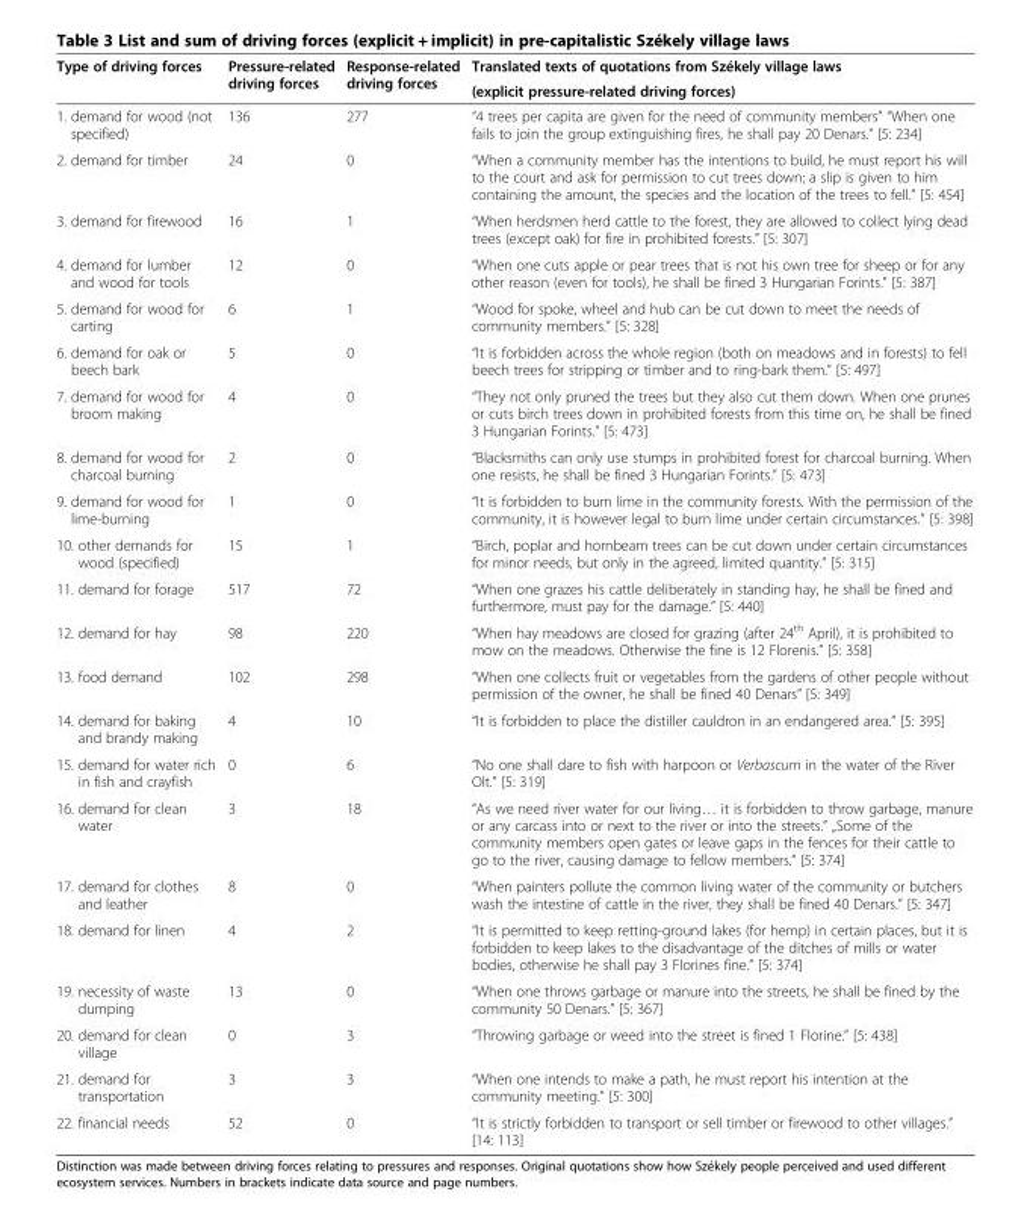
<table><thead><tr><td rowspan="2">Type of driving forces</td><td rowspan="2">Pressure-related driving forces</td><td rowspan="2">Response-related driving forces</td><td rowspan="2">Translated texts of quotations from Székely village laws (explicit pressure-related driving forces)</td></tr><tr></tr></thead><tbody><tr><td>1. demand for wood (not specified)</td><td>136</td><td>277</td><td>“4 trees per capita are given for the need of community members” “When one fails to join the group extinguishing fires, he shall pay 20 Denars.” [5: 234]</td></tr><tr><td>2. demand for timber</td><td>24</td><td>0</td><td>“When a community member has the intentions to build, he must report his will to the court and ask for permission to cut trees down; a slip is given to him containing the amount, the species and the location of the trees to fell.” [5: 454]</td></tr><tr><td>3. demand for firewood</td><td>16</td><td>1</td><td>“When herdsmen herd cattle to the forest, they are allowed to collect lying dead trees (except oak) for fire in prohibited forests.” [5: 307]</td></tr><tr><td>4. demand for lumber and wood for tools</td><td>12</td><td>0</td><td>“When one cuts apple or pear trees that is not his own tree for sheep or for any other reason (even for tools), he shall be fined 3 Hungarian Forints.” [5: 387]</td></tr><tr><td>5. demand for wood for carting</td><td>6</td><td>1</td><td>“Wood for spoke, wheel and hub can be cut down to meet the needs of community members.” [5: 328]</td></tr><tr><td>6. demand for oak or beech bark</td><td>5</td><td>0</td><td>“It is forbidden across the whole region (both on meadows and in forests) to fell beech trees for stripping or timber and to ring-bark them.” [5: 497]</td></tr><tr><td>7. demand for wood for broom making</td><td>4</td><td>0</td><td>“They not only pruned the trees but they also cut them down. When one prunes or cuts birch trees down in prohibited forests from this time on, he shall be fined 3 Hungarian Forints.” [5: 473]</td></tr><tr><td>8. demand for wood for charcoal burning</td><td>2</td><td>0</td><td>“Blacksmiths can only use stumps in prohibited forest for charcoal burning. When one resists, he shall be fined 3 Hungarian Forints.” [5: 473]</td></tr><tr><td>9. demand for wood for lime-burning</td><td>1</td><td>0</td><td>“It is forbidden to burn lime in the community forests. With the permission of the community, it is however legal to burn lime under certain circumstances.” [5: 398]</td></tr><tr><td>10. other demands for wood (specified)</td><td>15</td><td>1</td><td>“Birch, poplar and hornbeam trees can be cut down under certain circumstances for minor needs, but only in the agreed, limited quantity.” [5: 315]</td></tr><tr><td>11. demand for forage</td><td>517</td><td>72</td><td>“When one grazes his cattle deliberately in standing hay, he shall be fined and furthermore, must pay for the damage.” [5: 440]</td></tr><tr><td>12. demand for hay</td><td>98</td><td>220</td><td>“When hay meadows are closed for grazing (after 24<sup>th</sup> April), it is prohibited to mow on the meadows. Otherwise the fine is 12 Florenis.” [5: 358]</td></tr><tr><td>13. food demand</td><td>102</td><td>298</td><td>“When one collects fruit or vegetables from the gardens of other people without permission of the owner, he shall be fined 40 Denars” [5: 349]</td></tr><tr><td>14. demand for baking and brandy making</td><td>4</td><td>10</td><td>“It is forbidden to place the distiller cauldron in an endangered area.” [5: 395]</td></tr><tr><td>15. demand for water rich in fish and crayfish</td><td>0</td><td>6</td><td>“No one shall dare to fish with harpoon or Verbascum in the water of the River Olt.” [5: 319]</td></tr><tr><td>16. demand for clean water</td><td>3</td><td>18</td><td>“As we need river water for our living… it is forbidden to throw garbage, manure or any carcass into or next to the river or into the streets.” „Some of the community members open gates or leave gaps in the fences for their cattle to go to the river, causing damage to fellow members.” [5: 374]</td></tr><tr><td>17. demand for clothes and leather</td><td>8</td><td>0</td><td>“When painters pollute the common living water of the community or butchers wash the intestine of cattle in the river, they shall be fined 40 Denars.” [5: 347]</td></tr><tr><td>18. demand for linen</td><td>4</td><td>2</td><td>“It is permitted to keep retting-ground lakes (for hemp) in certain places, but it is forbidden to keep lakes to the disadvantage of the ditches of mills or water bodies, otherwise he shall pay 3 Florines fine.” [5: 374]</td></tr><tr><td>19. necessity of waste dumping</td><td>13</td><td>0</td><td>“When one throws garbage or manure into the streets, he shall be fined by the community 50 Denars.” [5: 367]</td></tr><tr><td>20. demand for clean village</td><td>0</td><td>3</td><td>“Throwing garbage or weed into the street is fined 1 Florine.” [5: 438]</td></tr><tr><td>21. demand for transportation</td><td>3</td><td>3</td><td>“When one intends to make a path, he must report his intention at the community meeting.” [5: 300]</td></tr><tr><td>22. financial needs</td><td>52</td><td>0</td><td>“It is strictly forbidden to transport or sell timber or firewood to other villages.” [14: 113]</td></tr></tbody></table>